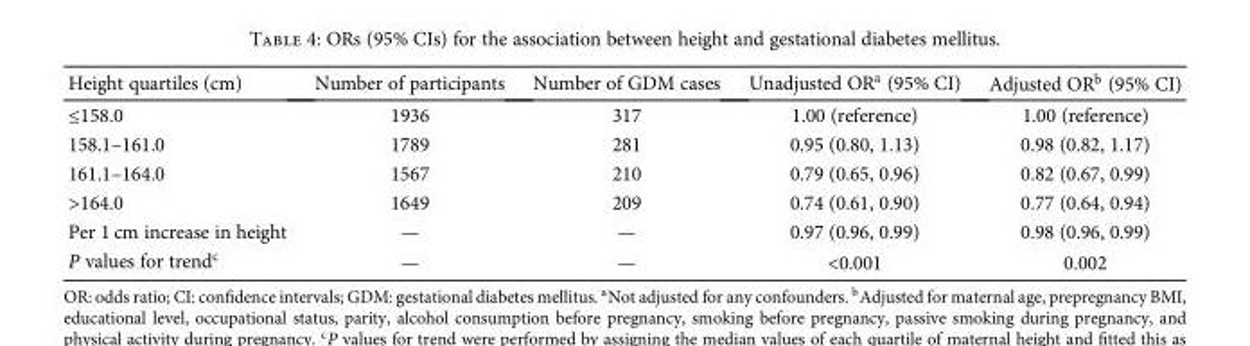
<table><thead><tr><td>Height quartiles (cm)</td><td>Number of participants</td><td>Number of GDM cases</td><td>Unadjusted OR<sup>a</sup> (95% CI)</td><td>Adjusted OR<sup>b</sup> (95% CI)</td></tr></thead><tbody><tr><td>≤158.0</td><td>1936</td><td>317</td><td>1.00 (reference)</td><td>1.00 (reference)</td></tr><tr><td>158.1–161.0</td><td>1789</td><td>281</td><td>0.95 (0.80, 1.13)</td><td>0.98 (0.82, 1.17)</td></tr><tr><td>161.1–164.0</td><td>1567</td><td>210</td><td>0.79 (0.65, 0.96)</td><td>0.82 (0.67, 0.99)</td></tr><tr><td>&gt;164.0</td><td>1649</td><td>209</td><td>0.74 (0.61, 0.90)</td><td>0.77 (0.64, 0.94)</td></tr><tr><td>Per 1 cm increase in height</td><td>—</td><td>—</td><td>0.97 (0.96, 0.99)</td><td>0.98 (0.96, 0.99)</td></tr><tr><td>P values for trend<sup>c</sup></td><td>—</td><td>—</td><td>&lt;0.001</td><td>0.002</td></tr></tbody></table>